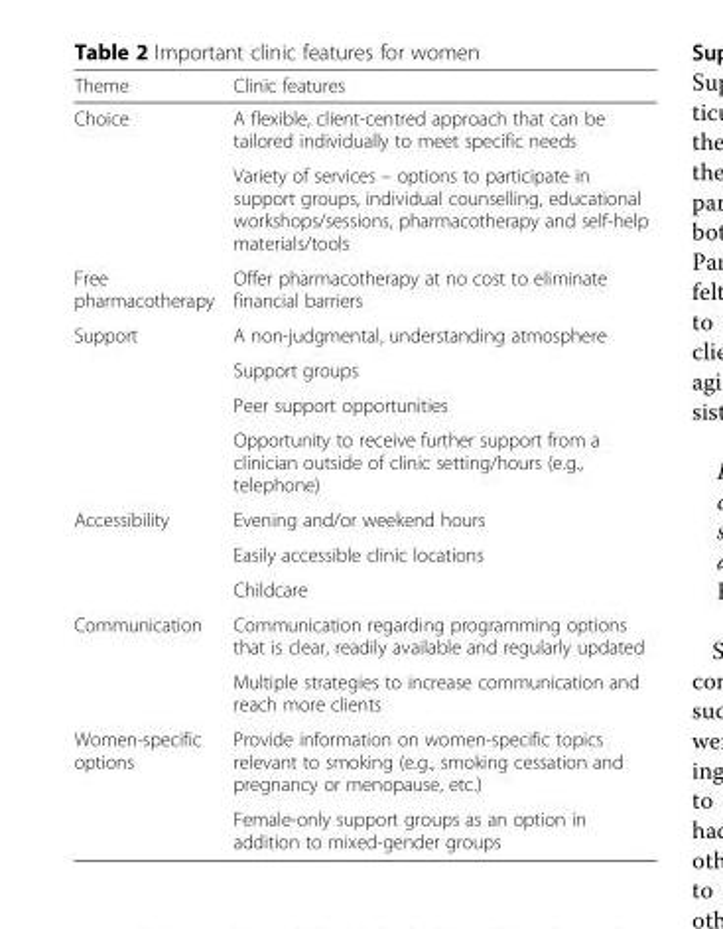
<table><thead><tr><td>Theme</td><td>Clinic features</td></tr></thead><tbody><tr><td rowspan="2">Choice</td><td>A flexible, client-centred approach that can be tailored individually to meet specific needs</td></tr><tr><td>Variety of services – options to participate in support groups, individual counselling, educational workshops/sessions, pharmacotherapy and self-help materials/tools</td></tr><tr><td>Free pharmacotherapy</td><td>Offer pharmacotherapy at no cost to eliminate financial barriers</td></tr><tr><td rowspan="4">Support</td><td>A non-judgmental, understanding atmosphere</td></tr><tr><td>Support groups</td></tr><tr><td>Peer support opportunities</td></tr><tr><td>Opportunity to receive further support from a clinician outside of clinic setting/hours (e.g., telephone)</td></tr><tr><td rowspan="3">Accessibility</td><td>Evening and/or weekend hours</td></tr><tr><td>Easily accessible clinic locations</td></tr><tr><td>Childcare</td></tr><tr><td rowspan="2">Communication</td><td>Communication regarding programming options that is clear, readily available and regularly updated</td></tr><tr><td>Multiple strategies to increase communication and reach more clients</td></tr><tr><td rowspan="2">Women-specific options</td><td>Provide information on women-specific topics relevant to smoking (e.g., smoking cessation and pregnancy or menopause, etc.)</td></tr><tr><td>Female-only support groups as an option in addition to mixed-gender groups</td></tr></tbody></table>